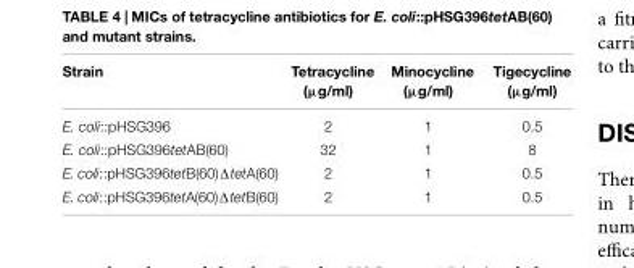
<table><thead><tr><td>Strain</td><td>Tetracycline (µg/ml)</td><td>Minocycline (µg/ml)</td><td>Tigecycline (µg/ml)</td></tr></thead><tbody><tr><td>E. coli::pHSG396</td><td>2</td><td>1</td><td>0.5</td></tr><tr><td>E. coli::pHSG396tetAB(60)</td><td>32</td><td>1</td><td>8</td></tr><tr><td>E. coli::pHSG396tetB(60)ΔtetA(60)</td><td>2</td><td>1</td><td>0.5</td></tr><tr><td>E. coli::pHSG396tetA(60)ΔtetB(60)</td><td>2</td><td>1</td><td>0.5</td></tr></tbody></table>